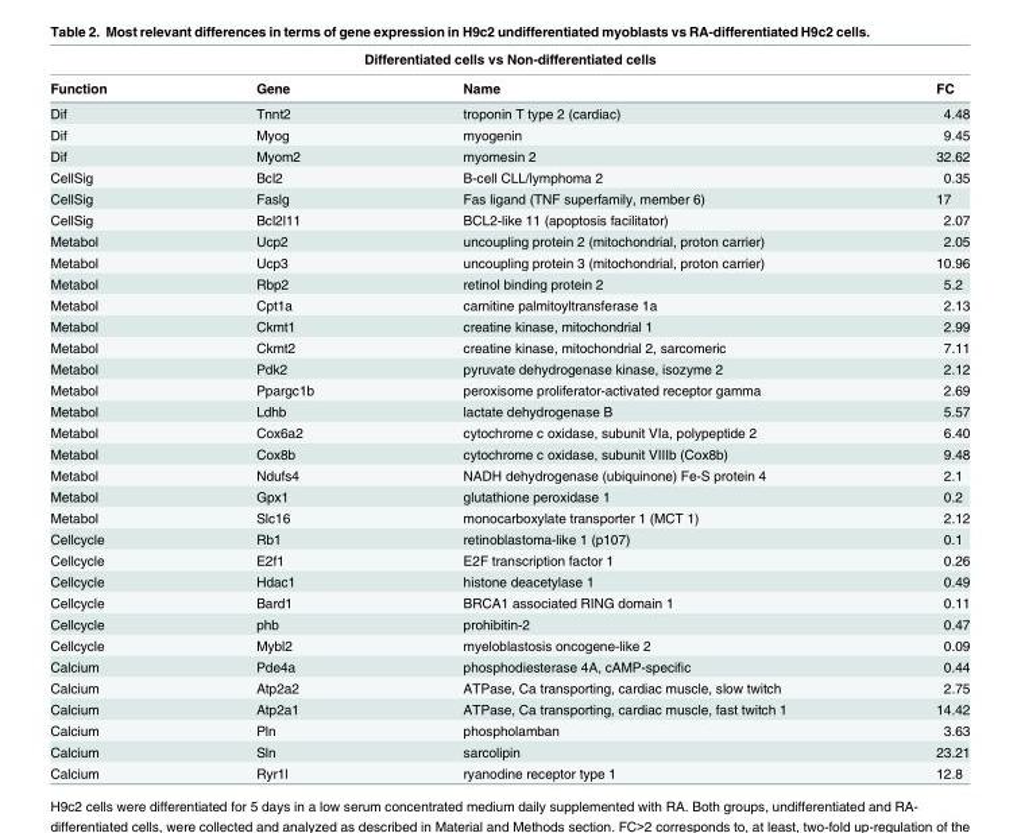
<table><thead><tr><td colspan="4">Differentiated cells vs Non-differentiated cells</td></tr><tr><td>Function</td><td>Gene</td><td>Name</td><td>FC</td></tr></thead><tbody><tr><td>Dif</td><td>Tnnt2</td><td>troponin T type 2 (cardiac)</td><td>4.48</td></tr><tr><td>Dif</td><td>Myog</td><td>myogenin</td><td>9.45</td></tr><tr><td>Dif</td><td>Myom2</td><td>myomesin 2</td><td>32.62</td></tr><tr><td>CellSig</td><td>Bcl2</td><td>B-cell CLL/lymphoma 2</td><td>0.35</td></tr><tr><td>CellSig</td><td>Faslg</td><td>Fas ligand (TNF superfamily, member 6)</td><td>17</td></tr><tr><td>CellSig</td><td>Bcl2l11</td><td>BCL2-like 11 (apoptosis facilitator)</td><td>2.07</td></tr><tr><td>Metabol</td><td>Ucp2</td><td>uncoupling protein 2 (mitochondrial, proton carrier)</td><td>2.05</td></tr><tr><td>Metabol</td><td>Ucp3</td><td>uncoupling protein 3 (mitochondrial, proton carrier)</td><td>10.96</td></tr><tr><td>Metabol</td><td>Rbp2</td><td>retinol binding protein 2</td><td>5.2</td></tr><tr><td>Metabol</td><td>Cpt1a</td><td>carnitine palmitoyltransferase 1a</td><td>2.13</td></tr><tr><td>Metabol</td><td>Ckmt1</td><td>creatine kinase, mitochondrial 1</td><td>2.99</td></tr><tr><td>Metabol</td><td>Ckmt2</td><td>creatine kinase, mitochondrial 2, sarcomeric</td><td>7.11</td></tr><tr><td>Metabol</td><td>Pdk2</td><td>pyruvate dehydrogenase kinase, isozyme 2</td><td>2.12</td></tr><tr><td>Metabol</td><td>Ppargc1b</td><td>peroxisome proliferator-activated receptor gamma</td><td>2.69</td></tr><tr><td>Metabol</td><td>Ldhb</td><td>lactate dehydrogenase B</td><td>5.57</td></tr><tr><td>Metabol</td><td>Cox6a2</td><td>cytochrome c oxidase, subunit VIa, polypeptide 2</td><td>6.40</td></tr><tr><td>Metabol</td><td>Cox8b</td><td>cytochrome c oxidase, subunit VIIIb (Cox8b)</td><td>9.48</td></tr><tr><td>Metabol</td><td>Ndufs4</td><td>NADH dehydrogenase (ubiquinone) Fe-S protein 4</td><td>2.1</td></tr><tr><td>Metabol</td><td>Gpx1</td><td>glutathione peroxidase 1</td><td>0.2</td></tr><tr><td>Metabol</td><td>Slc16</td><td>monocarboxylate transporter 1 (MCT 1)</td><td>2.12</td></tr><tr><td>Cellcycle</td><td>Rb1</td><td>retinoblastoma-like 1 (p107)</td><td>0.1</td></tr><tr><td>Cellcycle</td><td>E2f1</td><td>E2F transcription factor 1</td><td>0.26</td></tr><tr><td>Cellcycle</td><td>Hdac1</td><td>histone deacetylase 1</td><td>0.49</td></tr><tr><td>Cellcycle</td><td>Bard1</td><td>BRCA1 associated RING domain 1</td><td>0.11</td></tr><tr><td>Cellcycle</td><td>phb</td><td>prohibitin-2</td><td>0.47</td></tr><tr><td>Cellcycle</td><td>Mybl2</td><td>myeloblastosis oncogene-like 2</td><td>0.09</td></tr><tr><td>Calcium</td><td>Pde4a</td><td>phosphodiesterase 4A, cAMP-specific</td><td>0.44</td></tr><tr><td>Calcium</td><td>Atp2a2</td><td>ATPase, Ca transporting, cardiac muscle, slow twitch</td><td>2.75</td></tr><tr><td>Calcium</td><td>Atp2a1</td><td>ATPase, Ca transporting, cardiac muscle, fast twitch 1</td><td>14.42</td></tr><tr><td>Calcium</td><td>Pln</td><td>phospholamban</td><td>3.63</td></tr><tr><td>Calcium</td><td>Sln</td><td>sarcolipin</td><td>23.21</td></tr><tr><td>Calcium</td><td>Ryr1l</td><td>ryanodine receptor type 1</td><td>12.8</td></tr></tbody></table>